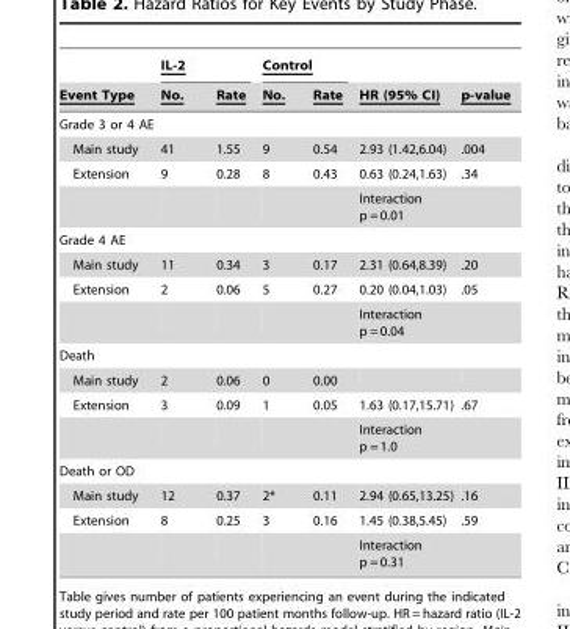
<table><thead><tr><td rowspan="2">Event Type</td><td colspan="2">IL-2</td><td colspan="2">Control</td><td rowspan="2">HR (95% CI)</td><td rowspan="2">p-value</td></tr><tr><td>No.</td><td>Rate</td><td>No.</td><td>Rate</td></tr></thead><tbody><tr><td colspan="7">Grade 3 or 4 AE</td></tr><tr><td>Main study</td><td>41</td><td>1.55</td><td>9</td><td>0.54</td><td>2.93 (1.42,6.04)</td><td>.004</td></tr><tr><td rowspan="2">Extension</td><td>9</td><td>0.28</td><td>8</td><td>0.43</td><td>0.63 (0.24,1.63)</td><td>.34</td></tr><tr><td></td><td></td><td></td><td></td><td colspan="2">Interaction p = 0.01</td></tr><tr><td colspan="7">Grade 4 AE</td></tr><tr><td>Main study</td><td>11</td><td>0.34</td><td>3</td><td>0.17</td><td>2.31 (0.64,8.39)</td><td>.20</td></tr><tr><td rowspan="2">Extension</td><td>2</td><td>0.06</td><td>5</td><td>0.27</td><td>0.20 (0.04,1.03)</td><td>.05</td></tr><tr><td></td><td></td><td></td><td></td><td colspan="2">Interaction p = 0.04</td></tr><tr><td colspan="7">Death</td></tr><tr><td>Main study</td><td>2</td><td>0.06</td><td>0</td><td>0.00</td><td></td><td></td></tr><tr><td rowspan="2">Extension</td><td>3</td><td>0.09</td><td>1</td><td>0.05</td><td>1.63 (0.17,15.71)</td><td>.67</td></tr><tr><td></td><td></td><td></td><td></td><td colspan="2">Interaction p = 1.0</td></tr><tr><td colspan="7">Death or OD</td></tr><tr><td>Main study</td><td>12</td><td>0.37</td><td>2*</td><td>0.11</td><td>2.94 (0.65,13.25)</td><td>.16</td></tr><tr><td rowspan="2">Extension</td><td>8</td><td>0.25</td><td>3</td><td>0.16</td><td>1.45 (0.38,5.45)</td><td>.59</td></tr><tr><td></td><td></td><td></td><td></td><td colspan="2">Interaction p = 0.31</td></tr></tbody></table>